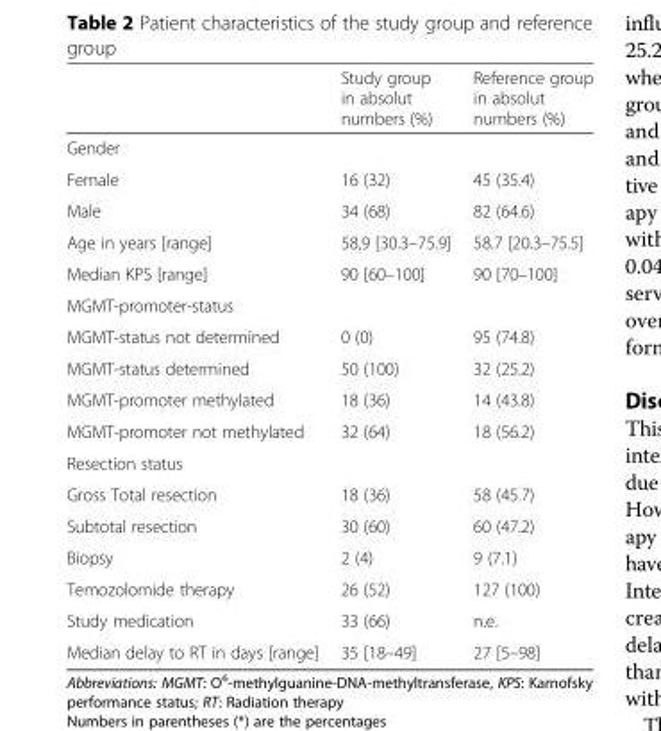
<table><thead><tr><td></td><td>Study group in absolut numbers (%)</td><td>Reference group in absolut numbers (%)</td></tr></thead><tbody><tr><td colspan="3">Gender</td></tr><tr><td>Female</td><td>16 (32)</td><td>45 (35.4)</td></tr><tr><td>Male</td><td>34 (68)</td><td>82 (64.6)</td></tr><tr><td>Age in years [range]</td><td>58,9 [30.3–75.9]</td><td>58.7 [20.3–75.5]</td></tr><tr><td>Median KPS [range]</td><td>90 [60–100]</td><td>90 [70–100]</td></tr><tr><td colspan="3">MGMT-promoter-status</td></tr><tr><td>MGMT-status not determined</td><td>0 (0)</td><td>95 (74.8)</td></tr><tr><td>MGMT-status determined</td><td>50 (100)</td><td>32 (25.2)</td></tr><tr><td>MGMT-promoter methylated</td><td>18 (36)</td><td>14 (43.8)</td></tr><tr><td>MGMT-promoter not methylated</td><td>32 (64)</td><td>18 (56.2)</td></tr><tr><td colspan="3">Resection status</td></tr><tr><td>Gross Total resection</td><td>18 (36)</td><td>58 (45.7)</td></tr><tr><td>Subtotal resection</td><td>30 (60)</td><td>60 (47.2)</td></tr><tr><td>Biopsy</td><td>2 (4)</td><td>9 (7.1)</td></tr><tr><td>Temozolomide therapy</td><td>26 (52)</td><td>127 (100)</td></tr><tr><td>Study medication</td><td>33 (66)</td><td>n.e.</td></tr><tr><td>Median delay to RT in days [range]</td><td>35 [18–49]</td><td>27 [5–98]</td></tr></tbody></table>